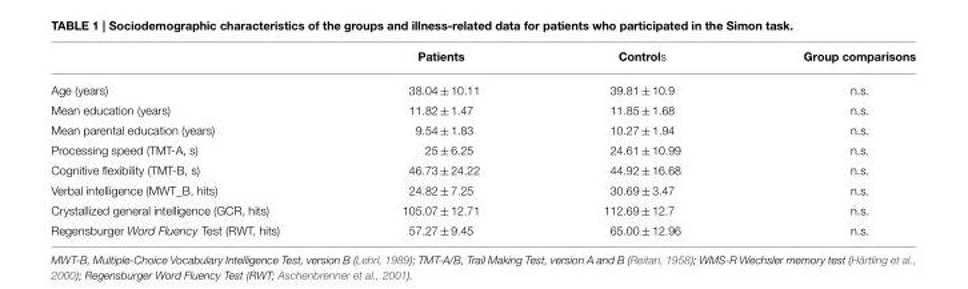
<table><thead><tr><td></td><td>Patients</td><td>Controls</td><td>Group comparisons</td></tr></thead><tbody><tr><td>Age (years)</td><td>38.04 ± 10.11</td><td>39.81 ± 10.9</td><td>n.s.</td></tr><tr><td>Mean education (years)</td><td>11.82 ± 1.47</td><td>11.85 ± 1.68</td><td>n.s.</td></tr><tr><td>Mean parental education (years)</td><td>9.54 ± 1.83</td><td>10.27 ± 1.94</td><td>n.s.</td></tr><tr><td>Processing speed (TMT-A, s)</td><td>25 ± 6.25</td><td>24.61 ± 10.99</td><td>n.s.</td></tr><tr><td>Cognitive flexibility (TMT-B, s)</td><td>46.73 ± 24.22</td><td>44.92 ± 16.68</td><td>n.s.</td></tr><tr><td>Verbal intelligence (MWT_B, hits)</td><td>24.82 ± 7.25</td><td>30.69 ± 3.47</td><td>n.s.</td></tr><tr><td>Crystallized general intelligence (GCR, hits)</td><td>105.07 ± 12.71</td><td>112.69 ± 12.7</td><td>n.s.</td></tr><tr><td>Regensburger Word Fluency Test (RWT, hits)</td><td>57.27 ± 9.45</td><td>65.00 ± 12.96</td><td>n.s.</td></tr></tbody></table>